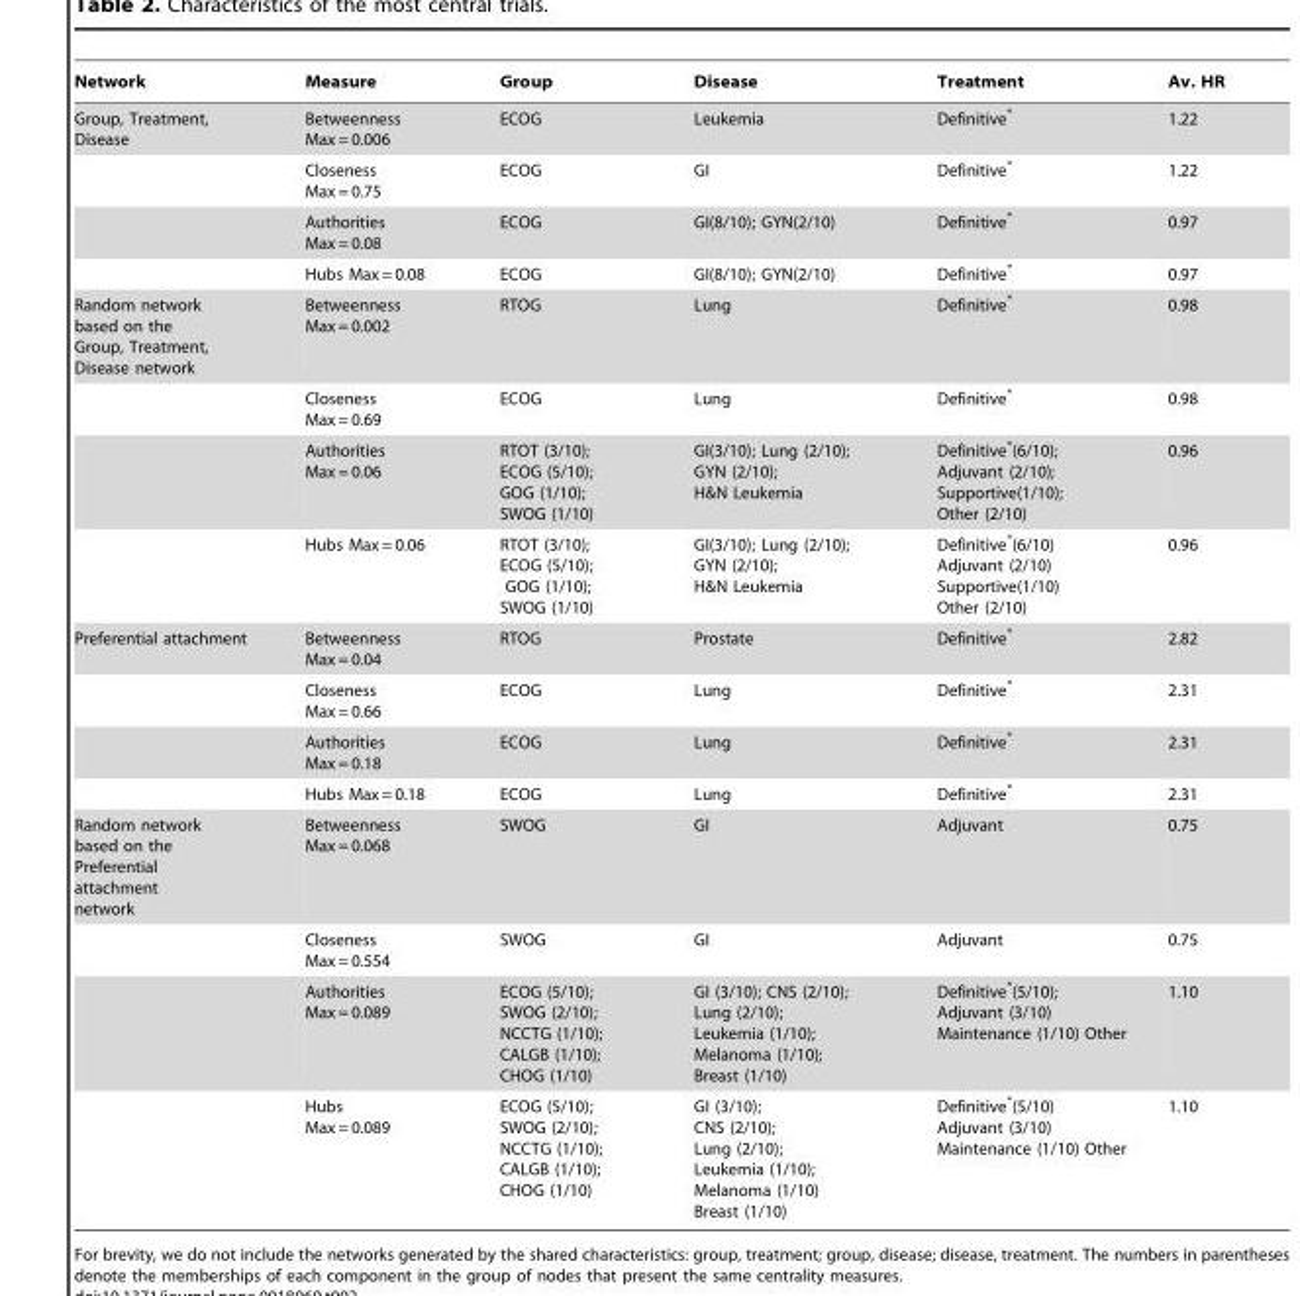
<table><thead><tr><td>Network</td><td>Measure</td><td>Group</td><td>Disease</td><td>Treatment</td><td>Av. HR</td></tr></thead><tbody><tr><td rowspan="4">Group, Treatment, Disease</td><td>Betweenness Max = 0.006</td><td>ECOG</td><td>Leukemia</td><td>Definitive*</td><td>1.22</td></tr><tr><td>Closeness Max = 0.75</td><td>ECOG</td><td>GI</td><td>Definitive*</td><td>1.22</td></tr><tr><td>Authorities Max = 0.08</td><td>ECOG</td><td>GI(8/10); GYN(2/10)</td><td>Definitive*</td><td>0.97</td></tr><tr><td>Hubs Max = 0.08</td><td>ECOG</td><td>GI(8/10); GYN(2/10)</td><td>Definitive*</td><td>0.97</td></tr><tr><td rowspan="4">Random network based on the Group, Treatment, Disease network</td><td>Betweenness Max = 0.002</td><td>RTOG</td><td>Lung</td><td>Definitive*</td><td>0.98</td></tr><tr><td>Closeness Max = 0.69</td><td>ECOG</td><td>Lung</td><td>Definitive*</td><td>0.98</td></tr><tr><td>Authorities Max = 0.06</td><td>RTOT (3/10); ECOG (5/10); GOG (1/10); SWOG (1/10)</td><td>GI(3/10); Lung (2/10); GYN (2/10); H&amp;N Leukemia</td><td>Definitive*(6/10); Adjuvant (2/10); Supportive(1/10); Other (2/10)</td><td>0.96</td></tr><tr><td>Hubs Max = 0.06</td><td>RTOT (3/10); ECOG (5/10); GOG (1/10); SWOG (1/10)</td><td>GI(3/10); Lung (2/10); GYN (2/10); H&amp;N Leukemia</td><td>Definitive*(6/10) Adjuvant (2/10) Supportive(1/10) Other (2/10)</td><td>0.96</td></tr><tr><td rowspan="4">Preferential attachment</td><td>Betweenness Max = 0.04</td><td>RTOG</td><td>Prostate</td><td>Definitive*</td><td>2.82</td></tr><tr><td>Closeness Max = 0.66</td><td>ECOG</td><td>Lung</td><td>Definitive*</td><td>2.31</td></tr><tr><td>Authorities Max = 0.18</td><td>ECOG</td><td>Lung</td><td>Definitive*</td><td>2.31</td></tr><tr><td>Hubs Max = 0.18</td><td>ECOG</td><td>Lung</td><td>Definitive*</td><td>2.31</td></tr><tr><td rowspan="4">Random network based on the Preferential attachment network</td><td>Betweenness Max = 0.068</td><td>SWOG</td><td>GI</td><td>Adjuvant</td><td>0.75</td></tr><tr><td>Closeness Max = 0.554</td><td>SWOG</td><td>GI</td><td>Adjuvant</td><td>0.75</td></tr><tr><td>Authorities Max = 0.089</td><td>ECOG (5/10); SWOG (2/10); NCCTG (1/10); CALGB (1/10); CHOG (1/10)</td><td>GI (3/10); CNS (2/10); Lung (2/10); Leukemia (1/10); Melanoma (1/10); Breast (1/10)</td><td>Definitive*(5/10); Adjuvant (3/10) Maintenance (1/10) Other</td><td>1.10</td></tr><tr><td>Hubs Max = 0.089</td><td>ECOG (5/10); SWOG (2/10); NCCTG (1/10); CALGB (1/10); CHOG (1/10)</td><td>GI (3/10); CNS (2/10); Lung (2/10); Leukemia (1/10); Melanoma (1/10) Breast (1/10)</td><td>Definitive*(5/10) Adjuvant (3/10) Maintenance (1/10) Other</td><td>1.10</td></tr></tbody></table>